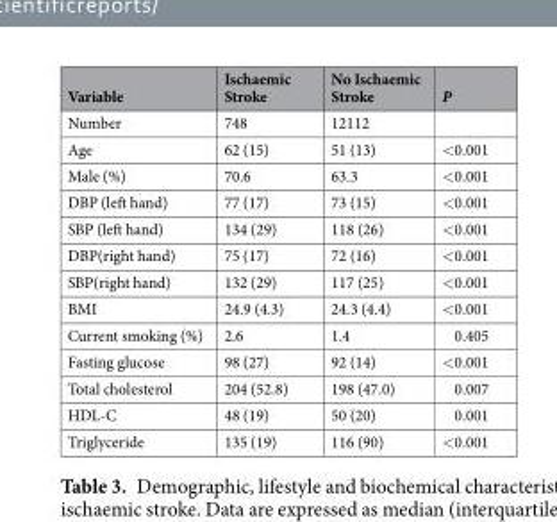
<table><thead><tr><td>Variable</td><td>Ischaemic Stroke</td><td>No Ischaemic Stroke</td><td>P</td></tr></thead><tbody><tr><td>Number</td><td>748</td><td>12112</td><td></td></tr><tr><td>Age</td><td>62 (15)</td><td>51 (13)</td><td>&lt;0.001</td></tr><tr><td>Male (%)</td><td>70.6</td><td>63.3</td><td>&lt;0.001</td></tr><tr><td>DBP (left hand)</td><td>77 (17)</td><td>73 (15)</td><td>&lt;0.001</td></tr><tr><td>SBP (left hand)</td><td>134 (29)</td><td>118 (26)</td><td>&lt;0.001</td></tr><tr><td>DBP(right hand)</td><td>75 (17)</td><td>72 (16)</td><td>&lt;0.001</td></tr><tr><td>SBP(right hand)</td><td>132 (29)</td><td>117 (25)</td><td>&lt;0.001</td></tr><tr><td>BMI</td><td>24.9 (4.3)</td><td>24.3 (4.4)</td><td>&lt;0.001</td></tr><tr><td>Current smoking (%)</td><td>2.6</td><td>1.4</td><td>0.405</td></tr><tr><td>Fasting glucose</td><td>98 (27)</td><td>92 (14)</td><td>&lt;0.001</td></tr><tr><td>Total cholesterol</td><td>204 (52.8)</td><td>198 (47.0)</td><td>0.007</td></tr><tr><td>HDL-C</td><td>48 (19)</td><td>50 (20)</td><td>0.001</td></tr><tr><td>Triglyceride</td><td>135 (19)</td><td>116 (90)</td><td>&lt;0.001</td></tr></tbody></table>